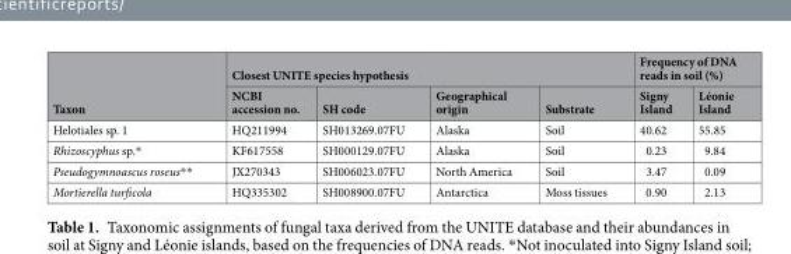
<table><thead><tr><td rowspan="2">Taxon</td><td colspan="4">Closest UNITE species hypothesis</td><td colspan="2">Frequency of DNA reads in soil (%)</td></tr><tr><td>NCBI accession no.</td><td>SH code</td><td>Geographical origin</td><td>Substrate</td><td>Signy Island</td><td>Léonie Island</td></tr></thead><tbody><tr><td>Helotiales sp. 1</td><td>HQ211994</td><td>SH013269.07FU</td><td>Alaska</td><td>Soil</td><td>40.62</td><td>55.85</td></tr><tr><td>Rhizoscyphus sp.*</td><td>KF617558</td><td>SH000129.07FU</td><td>Alaska</td><td>Soil</td><td>0.23</td><td>9.84</td></tr><tr><td>Pseudogymnoascus roseus**</td><td>JX270343</td><td>SH006023.07FU</td><td>North America</td><td>Soil</td><td>3.47</td><td>0.09</td></tr><tr><td>Mortierella turficola</td><td>HQ335302</td><td>SH008900.07FU</td><td>Antarctica</td><td>Moss tissues</td><td>0.90</td><td>2.13</td></tr></tbody></table>